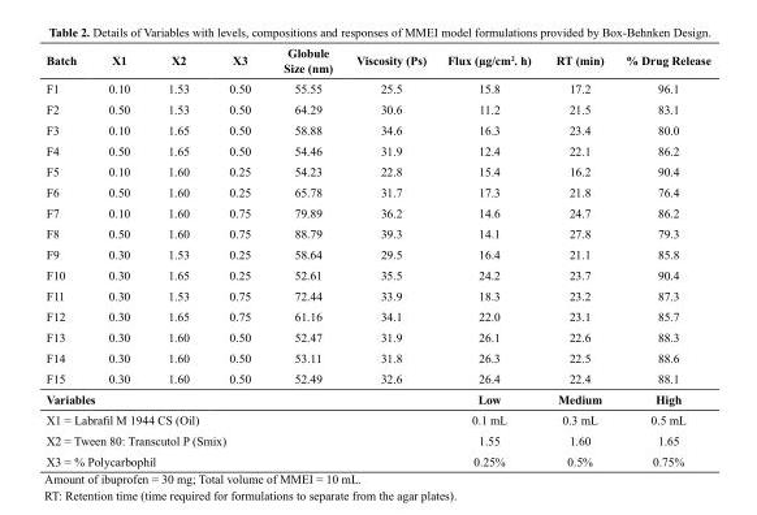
<table><thead><tr><td>Batch</td><td>X1</td><td>X2</td><td>X3</td><td>Globule Size (nm)</td><td>Viscosity (Ps)</td><td>Flux (µg/cm<sup>2</sup>. h)</td><td>RT (min)</td><td>% Drug Release</td></tr></thead><tbody><tr><td>F1</td><td>0.10</td><td>1.53</td><td>0.50</td><td>55.55</td><td>25.5</td><td>15.8</td><td>17.2</td><td>96.1</td></tr><tr><td>F2</td><td>0.50</td><td>1.53</td><td>0.50</td><td>64.29</td><td>30.6</td><td>11.2</td><td>21.5</td><td>83.1</td></tr><tr><td>F3</td><td>0.10</td><td>1.65</td><td>0.50</td><td>58.88</td><td>34.6</td><td>16.3</td><td>23.4</td><td>80.0</td></tr><tr><td>F4</td><td>0.50</td><td>1.65</td><td>0.50</td><td>54.46</td><td>31.9</td><td>12.4</td><td>22.1</td><td>86.2</td></tr><tr><td>F5</td><td>0.10</td><td>1.60</td><td>0.25</td><td>54.23</td><td>22.8</td><td>15.4</td><td>16.2</td><td>90.4</td></tr><tr><td>F6</td><td>0.50</td><td>1.60</td><td>0.25</td><td>65.78</td><td>31.7</td><td>17.3</td><td>21.8</td><td>76.4</td></tr><tr><td>F7</td><td>0.10</td><td>1.60</td><td>0.75</td><td>79.89</td><td>36.2</td><td>14.6</td><td>24.7</td><td>86.2</td></tr><tr><td>F8</td><td>0.50</td><td>1.60</td><td>0.75</td><td>88.79</td><td>39.3</td><td>14.1</td><td>27.8</td><td>79.3</td></tr><tr><td>F9</td><td>0.30</td><td>1.53</td><td>0.25</td><td>58.64</td><td>29.5</td><td>16.4</td><td>21.1</td><td>85.8</td></tr><tr><td>F10</td><td>0.30</td><td>1.65</td><td>0.25</td><td>52.61</td><td>35.5</td><td>24.2</td><td>23.7</td><td>90.4</td></tr><tr><td>F11</td><td>0.30</td><td>1.53</td><td>0.75</td><td>72.44</td><td>33.9</td><td>18.3</td><td>23.2</td><td>87.3</td></tr><tr><td>F12</td><td>0.30</td><td>1.65</td><td>0.75</td><td>61.16</td><td>34.1</td><td>22.0</td><td>23.1</td><td>85.7</td></tr><tr><td>F13</td><td>0.30</td><td>1.60</td><td>0.50</td><td>52.47</td><td>31.9</td><td>26.1</td><td>22.6</td><td>88.3</td></tr><tr><td>F14</td><td>0.30</td><td>1.60</td><td>0.50</td><td>53.11</td><td>31.8</td><td>26.3</td><td>22.5</td><td>88.6</td></tr><tr><td>F15</td><td>0.30</td><td>1.60</td><td>0.50</td><td>52.49</td><td>32.6</td><td>26.4</td><td>22.4</td><td>88.1</td></tr><tr><td colspan="6">Variables</td><td>Low</td><td>Medium</td><td>High</td></tr><tr><td colspan="6">X1 = Labrafil M 1944 CS (Oil)</td><td>0.1 mL</td><td>0.3 mL</td><td>0.5 mL</td></tr><tr><td colspan="6">X2 = Tween 80: Transcutol P (Smix)</td><td>1.55</td><td>1.60</td><td>1.65</td></tr><tr><td colspan="6">X3 = % Polycarbophil</td><td>0.25%</td><td>0.5%</td><td>0.75%</td></tr></tbody></table>